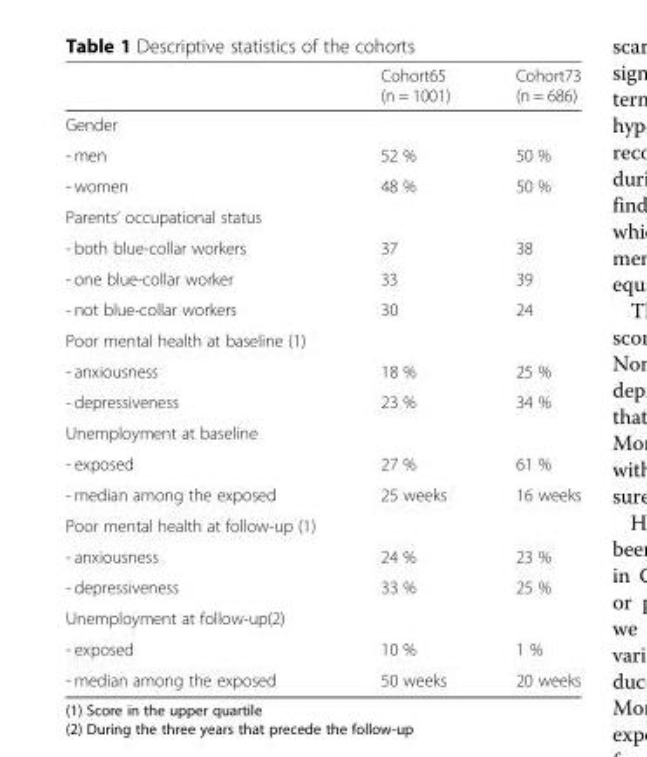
<table><thead><tr><td></td><td>Cohort65 (n = 1001)</td><td>Cohort73 (n = 686)</td></tr></thead><tbody><tr><td colspan="3">Gender</td></tr><tr><td>- men</td><td>52 %</td><td>50 %</td></tr><tr><td>- women</td><td>48 %</td><td>50 %</td></tr><tr><td colspan="3">Parents’ occupational status</td></tr><tr><td>- both blue-collar workers</td><td>37</td><td>38</td></tr><tr><td>- one blue-collar worker</td><td>33</td><td>39</td></tr><tr><td>- not blue-collar workers</td><td>30</td><td>24</td></tr><tr><td colspan="3">Poor mental health at baseline (1)</td></tr><tr><td>- anxiousness</td><td>18 %</td><td>25 %</td></tr><tr><td>- depressiveness</td><td>23 %</td><td>34 %</td></tr><tr><td colspan="3">Unemployment at baseline</td></tr><tr><td>- exposed</td><td>27 %</td><td>61 %</td></tr><tr><td>- median among the exposed</td><td>25 weeks</td><td>16 weeks</td></tr><tr><td colspan="3">Poor mental health at follow-up (1)</td></tr><tr><td>- anxiousness</td><td>24 %</td><td>23 %</td></tr><tr><td>- depressiveness</td><td>33 %</td><td>25 %</td></tr><tr><td colspan="3">Unemployment at follow-up(2)</td></tr><tr><td>- exposed</td><td>10 %</td><td>1 %</td></tr><tr><td>- median among the exposed</td><td>50 weeks</td><td>20 weeks</td></tr></tbody></table>